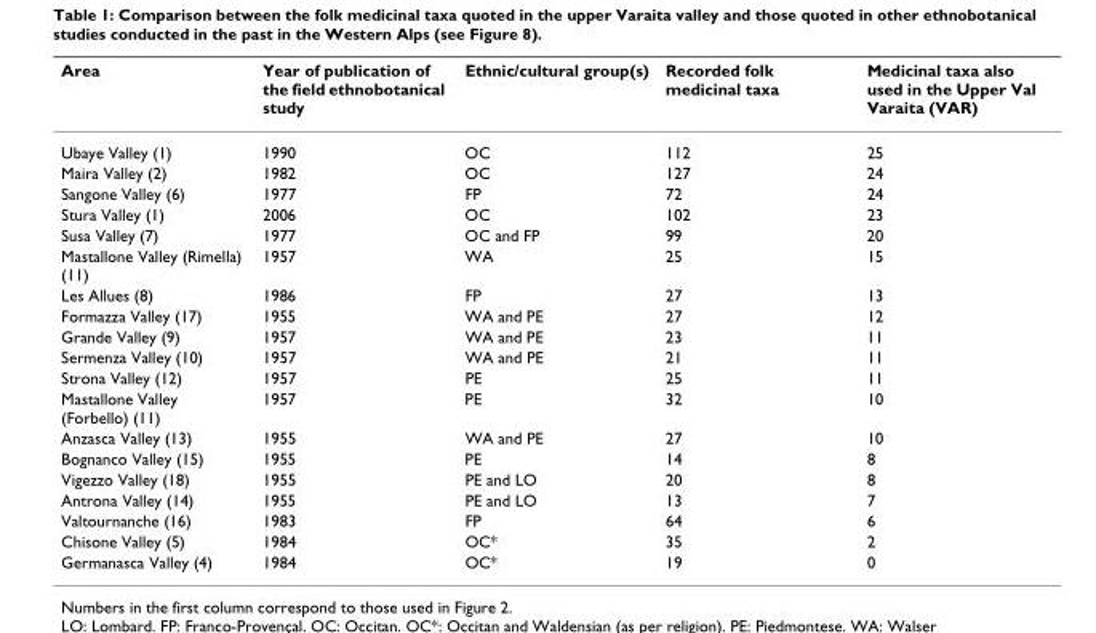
<table><thead><tr><td>Area</td><td>Year of publication of the field ethnobotanical study</td><td>Ethnic/cultural group(s)</td><td>Recorded folk medicinal taxa</td><td>Medicinal taxa also used in the Upper Val Varaita (VAR)</td></tr></thead><tbody><tr><td>Ubaye Valley (1)</td><td>1990</td><td>OC</td><td>112</td><td>25</td></tr><tr><td>Maira Valley (2)</td><td>1982</td><td>OC</td><td>127</td><td>24</td></tr><tr><td>Sangone Valley (6)</td><td>1977</td><td>FP</td><td>72</td><td>24</td></tr><tr><td>Stura Valley (1)</td><td>2006</td><td>OC</td><td>102</td><td>23</td></tr><tr><td>Susa Valley (7)</td><td>1977</td><td>OC and FP</td><td>99</td><td>20</td></tr><tr><td>Mastallone Valley (Rimella) (11)</td><td>1957</td><td>WA</td><td>25</td><td>15</td></tr><tr><td>Les Allues (8)</td><td>1986</td><td>FP</td><td>27</td><td>13</td></tr><tr><td>Formazza Valley (17)</td><td>1955</td><td>WA and PE</td><td>27</td><td>12</td></tr><tr><td>Grande Valley (9)</td><td>1957</td><td>WA and PE</td><td>23</td><td>11</td></tr><tr><td>Sermenza Valley (10)</td><td>1957</td><td>WA and PE</td><td>21</td><td>11</td></tr><tr><td>Strona Valley (12)</td><td>1957</td><td>PE</td><td>25</td><td>11</td></tr><tr><td>Mastallone Valley (Forbello) (11)</td><td>1957</td><td>PE</td><td>32</td><td>10</td></tr><tr><td>Anzasca Valley (13)</td><td>1955</td><td>WA and PE</td><td>27</td><td>10</td></tr><tr><td>Bognanco Valley (15)</td><td>1955</td><td>PE</td><td>14</td><td>8</td></tr><tr><td>Vigezzo Valley (18)</td><td>1955</td><td>PE and LO</td><td>20</td><td>8</td></tr><tr><td>Antrona Valley (14)</td><td>1955</td><td>PE and LO</td><td>13</td><td>7</td></tr><tr><td>Valtournanche (16)</td><td>1983</td><td>FP</td><td>64</td><td>6</td></tr><tr><td>Chisone Valley (5)</td><td>1984</td><td>OC*</td><td>35</td><td>2</td></tr><tr><td>Germanasca Valley (4)</td><td>1984</td><td>OC*</td><td>19</td><td>0</td></tr></tbody></table>